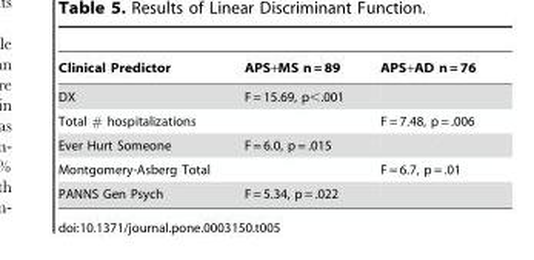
<table><thead><tr><td>Clinical Predictor</td><td>APS+MS n = 89</td><td>APS+AD n = 76</td></tr></thead><tbody><tr><td>DX</td><td>F = 15.69, p&lt;.001</td><td></td></tr><tr><td>Total # hospitalizations</td><td></td><td>F = 7.48, p = .006</td></tr><tr><td>Ever Hurt Someone</td><td>F = 6.0, p = .015</td><td></td></tr><tr><td>Montgomery-Asberg Total</td><td></td><td>F = 6.7, p = .01</td></tr><tr><td>PANNS Gen Psych</td><td>F = 5.34, p = .022</td><td></td></tr></tbody></table>